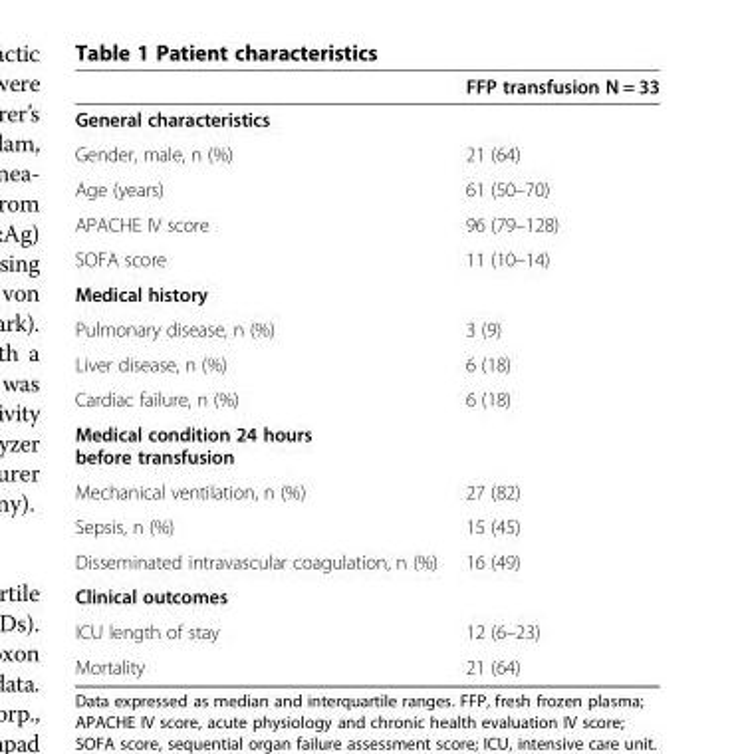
<table><thead><tr><td></td><td>FFP transfusion N = 33</td></tr></thead><tbody><tr><td colspan="2">General characteristics</td></tr><tr><td>Gender, male, n (%)</td><td>21 (64)</td></tr><tr><td>Age (years)</td><td>61 (50–70)</td></tr><tr><td>APACHE IV score</td><td>96 (79–128)</td></tr><tr><td>SOFA score</td><td>11 (10–14)</td></tr><tr><td colspan="2">Medical history</td></tr><tr><td>Pulmonary disease, n (%)</td><td>3 (9)</td></tr><tr><td>Liver disease, n (%)</td><td>6 (18)</td></tr><tr><td>Cardiac failure, n (%)</td><td>6 (18)</td></tr><tr><td colspan="2">Medical condition 24 hours before transfusion</td></tr><tr><td>Mechanical ventilation, n (%)</td><td>27 (82)</td></tr><tr><td>Sepsis, n (%)</td><td>15 (45)</td></tr><tr><td>Disseminated intravascular coagulation, n (%)</td><td>16 (49)</td></tr><tr><td colspan="2">Clinical outcomes</td></tr><tr><td>ICU length of stay</td><td>12 (6–23)</td></tr><tr><td>Mortality</td><td>21 (64)</td></tr></tbody></table>